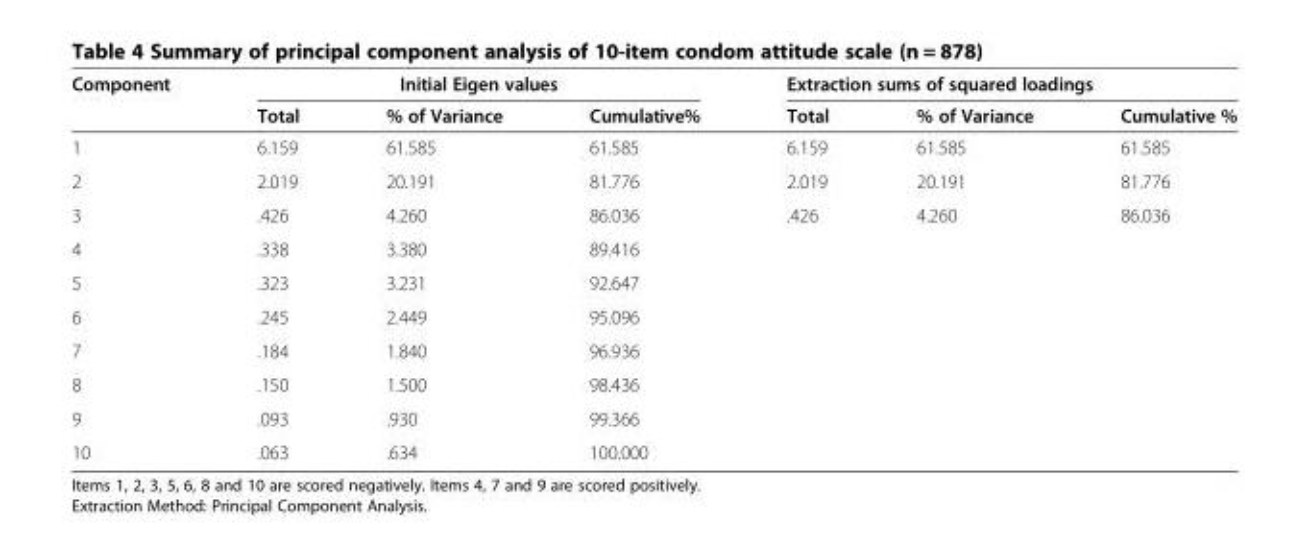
<table><thead><tr><td rowspan="2">Component</td><td colspan="3">Initial Eigen values</td><td colspan="3">Extraction sums of squared loadings</td></tr><tr><td>Total</td><td>% of Variance</td><td>Cumulative%</td><td>Total</td><td>% of Variance</td><td>Cumulative %</td></tr></thead><tbody><tr><td>1</td><td>6.159</td><td>61.585</td><td>61.585</td><td>6.159</td><td>61.585</td><td>61.585</td></tr><tr><td>2</td><td>2.019</td><td>20.191</td><td>81.776</td><td>2.019</td><td>20.191</td><td>81.776</td></tr><tr><td>3</td><td>.426</td><td>4.260</td><td>86.036</td><td>.426</td><td>4.260</td><td>86.036</td></tr><tr><td>4</td><td>.338</td><td>3.380</td><td>89.416</td><td></td><td></td><td></td></tr><tr><td>5</td><td>.323</td><td>3.231</td><td>92.647</td><td></td><td></td><td></td></tr><tr><td>6</td><td>.245</td><td>2.449</td><td>95.096</td><td></td><td></td><td></td></tr><tr><td>7</td><td>.184</td><td>1.840</td><td>96.936</td><td></td><td></td><td></td></tr><tr><td>8</td><td>.150</td><td>1.500</td><td>98.436</td><td></td><td></td><td></td></tr><tr><td>9</td><td>.093</td><td>.930</td><td>99.366</td><td></td><td></td><td></td></tr><tr><td>10</td><td>.063</td><td>.634</td><td>100.000</td><td></td><td></td><td></td></tr></tbody></table>